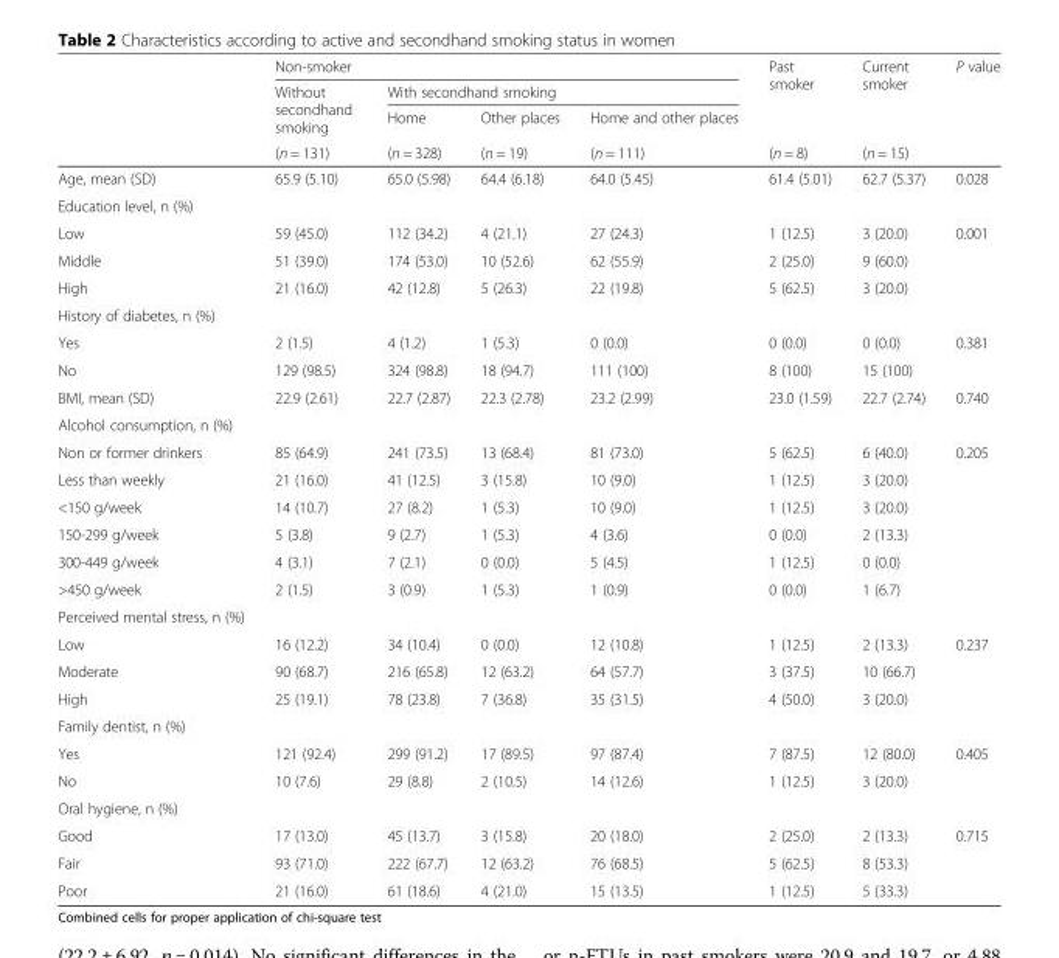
<table><thead><tr><td rowspan="4"></td><td colspan="4">Non-smoker</td><td rowspan="4">Past smoker (n = 8)</td><td rowspan="4">Current smoker (n = 15)</td><td rowspan="4">P value</td></tr><tr><td rowspan="3">Without secondhand smoking (n = 131)</td><td colspan="3">With secondhand smoking</td></tr><tr><td rowspan="2">Home (n = 328)</td><td rowspan="2">Other places (n = 19)</td><td rowspan="2">Home and other places (n = 111)</td></tr><tr></tr></thead><tbody><tr><td>Age, mean (SD)</td><td>65.9 (5.10)</td><td>65.0 (5.98)</td><td>64.4 (6.18)</td><td>64.0 (5.45)</td><td>61.4 (5.01)</td><td>62.7 (5.37)</td><td>0.028</td></tr><tr><td colspan="8">Education level, n (%)</td></tr><tr><td>Low</td><td>59 (45.0)</td><td>112 (34.2)</td><td>4 (21.1)</td><td>27 (24.3)</td><td>1 (12.5)</td><td>3 (20.0)</td><td>0.001</td></tr><tr><td>Middle</td><td>51 (39.0)</td><td>174 (53.0)</td><td>10 (52.6)</td><td>62 (55.9)</td><td>2 (25.0)</td><td>9 (60.0)</td><td></td></tr><tr><td>High</td><td>21 (16.0)</td><td>42 (12.8)</td><td>5 (26.3)</td><td>22 (19.8)</td><td>5 (62.5)</td><td>3 (20.0)</td><td></td></tr><tr><td colspan="8">History of diabetes, n (%)</td></tr><tr><td>Yes</td><td>2 (1.5)</td><td>4 (1.2)</td><td>1 (5.3)</td><td>0 (0.0)</td><td>0 (0.0)</td><td>0 (0.0)</td><td>0.381</td></tr><tr><td>No</td><td>129 (98.5)</td><td>324 (98.8)</td><td>18 (94.7)</td><td>111 (100)</td><td>8 (100)</td><td>15 (100)</td><td></td></tr><tr><td>BMI, mean (SD)</td><td>22.9 (2.61)</td><td>22.7 (2.87)</td><td>22.3 (2.78)</td><td>23.2 (2.99)</td><td>23.0 (1.59)</td><td>22.7 (2.74)</td><td>0.740</td></tr><tr><td colspan="8">Alcohol consumption, n (%)</td></tr><tr><td>Non or former drinkers</td><td>85 (64.9)</td><td>241 (73.5)</td><td>13 (68.4)</td><td>81 (73.0)</td><td>5 (62.5)</td><td>6 (40.0)</td><td>0.205</td></tr><tr><td>Less than weekly</td><td>21 (16.0)</td><td>41 (12.5)</td><td>3 (15.8)</td><td>10 (9.0)</td><td>1 (12.5)</td><td>3 (20.0)</td><td></td></tr><tr><td>&lt;150 g/week</td><td>14 (10.7)</td><td>27 (8.2)</td><td>1 (5.3)</td><td>10 (9.0)</td><td>1 (12.5)</td><td>3 (20.0)</td><td></td></tr><tr><td>150-299 g/week</td><td>5 (3.8)</td><td>9 (2.7)</td><td>1 (5.3)</td><td>4 (3.6)</td><td>0 (0.0)</td><td>2 (13.3)</td><td></td></tr><tr><td>300-449 g/week</td><td>4 (3.1)</td><td>7 (2.1)</td><td>0 (0.0)</td><td>5 (4.5)</td><td>1 (12.5)</td><td>0 (0.0)</td><td></td></tr><tr><td>&gt;450 g/week</td><td>2 (1.5)</td><td>3 (0.9)</td><td>1 (5.3)</td><td>1 (0.9)</td><td>0 (0.0)</td><td>1 (6.7)</td><td></td></tr><tr><td colspan="8">Perceived mental stress, n (%)</td></tr><tr><td>Low</td><td>16 (12.2)</td><td>34 (10.4)</td><td>0 (0.0)</td><td>12 (10.8)</td><td>1 (12.5)</td><td>2 (13.3)</td><td>0.237</td></tr><tr><td>Moderate</td><td>90 (68.7)</td><td>216 (65.8)</td><td>12 (63.2)</td><td>64 (57.7)</td><td>3 (37.5)</td><td>10 (66.7)</td><td></td></tr><tr><td>High</td><td>25 (19.1)</td><td>78 (23.8)</td><td>7 (36.8)</td><td>35 (31.5)</td><td>4 (50.0)</td><td>3 (20.0)</td><td></td></tr><tr><td colspan="8">Family dentist, n (%)</td></tr><tr><td>Yes</td><td>121 (92.4)</td><td>299 (91.2)</td><td>17 (89.5)</td><td>97 (87.4)</td><td>7 (87.5)</td><td>12 (80.0)</td><td>0.405</td></tr><tr><td>No</td><td>10 (7.6)</td><td>29 (8.8)</td><td>2 (10.5)</td><td>14 (12.6)</td><td>1 (12.5)</td><td>3 (20.0)</td><td></td></tr><tr><td colspan="8">Oral hygiene, n (%)</td></tr><tr><td>Good</td><td>17 (13.0)</td><td>45 (13.7)</td><td>3 (15.8)</td><td>20 (18.0)</td><td>2 (25.0)</td><td>2 (13.3)</td><td>0.715</td></tr><tr><td>Fair</td><td>93 (71.0)</td><td>222 (67.7)</td><td>12 (63.2)</td><td>76 (68.5)</td><td>5 (62.5)</td><td>8 (53.3)</td><td></td></tr><tr><td>Poor</td><td>21 (16.0)</td><td>61 (18.6)</td><td>4 (21.0)</td><td>15 (13.5)</td><td>1 (12.5)</td><td>5 (33.3)</td><td></td></tr></tbody></table>